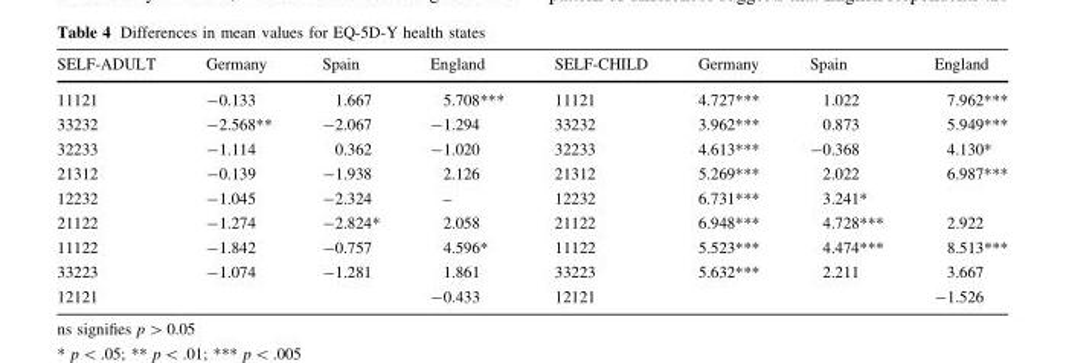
<table><thead><tr><td>SELF-ADULT</td><td>Germany</td><td>Spain</td><td>England</td><td>SELF-CHILD</td><td>Germany</td><td>Spain</td><td>England</td></tr></thead><tbody><tr><td>11121</td><td>-0.133</td><td>1.667</td><td>5.708***</td><td>11121</td><td>4.727***</td><td>1.022</td><td>7.962***</td></tr><tr><td>33232</td><td>-2.568**</td><td>-2.067</td><td>-1.294</td><td>33232</td><td>3.962***</td><td>0.873</td><td>5.949***</td></tr><tr><td>32233</td><td>-1.114</td><td>0.362</td><td>-1.020</td><td>32233</td><td>4.613***</td><td>-0.368</td><td>4.130*</td></tr><tr><td>21312</td><td>-0.139</td><td>-1.938</td><td>2.126</td><td>21312</td><td>5.269***</td><td>2.022</td><td>6.987***</td></tr><tr><td>12232</td><td>-1.045</td><td>-2.324</td><td>–</td><td>12232</td><td>6.731***</td><td>3.241*</td><td></td></tr><tr><td>21122</td><td>-1.274</td><td>-2.824*</td><td>2.058</td><td>21122</td><td>6.948***</td><td>4.728***</td><td>2.922</td></tr><tr><td>11122</td><td>-1.842</td><td>-0.757</td><td>4.596*</td><td>11122</td><td>5.523***</td><td>4.474***</td><td>8.513***</td></tr><tr><td>33223</td><td>-1.074</td><td>-1.281</td><td>1.861</td><td>33223</td><td>5.632***</td><td>2.211</td><td>3.667</td></tr><tr><td>12121</td><td></td><td></td><td>-0.433</td><td>12121</td><td></td><td></td><td>-1.526</td></tr></tbody></table>